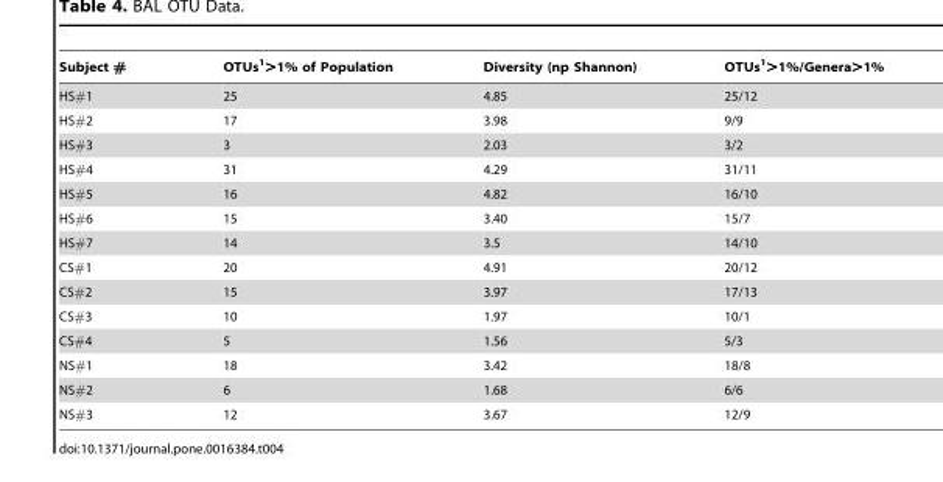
<table><thead><tr><td>Subject #</td><td>OTUs<sup>1</sup>&gt;1% of Population</td><td>Diversity (np Shannon)</td><td>OTUs<sup>1</sup>&gt;1%/Genera&gt;1%</td></tr></thead><tbody><tr><td>HS#1</td><td>25</td><td>4.85</td><td>25/12</td></tr><tr><td>HS#2</td><td>17</td><td>3.98</td><td>9/9</td></tr><tr><td>HS#3</td><td>3</td><td>2.03</td><td>3/2</td></tr><tr><td>HS#4</td><td>31</td><td>4.29</td><td>31/11</td></tr><tr><td>HS#5</td><td>16</td><td>4.82</td><td>16/10</td></tr><tr><td>HS#6</td><td>15</td><td>3.40</td><td>15/7</td></tr><tr><td>HS#7</td><td>14</td><td>3.5</td><td>14/10</td></tr><tr><td>CS#1</td><td>20</td><td>4.91</td><td>20/12</td></tr><tr><td>CS#2</td><td>15</td><td>3.97</td><td>17/13</td></tr><tr><td>CS#3</td><td>10</td><td>1.97</td><td>10/1</td></tr><tr><td>CS#4</td><td>5</td><td>1.56</td><td>5/3</td></tr><tr><td>NS#1</td><td>18</td><td>3.42</td><td>18/8</td></tr><tr><td>NS#2</td><td>6</td><td>1.68</td><td>6/6</td></tr><tr><td>NS#3</td><td>12</td><td>3.67</td><td>12/9</td></tr></tbody></table>